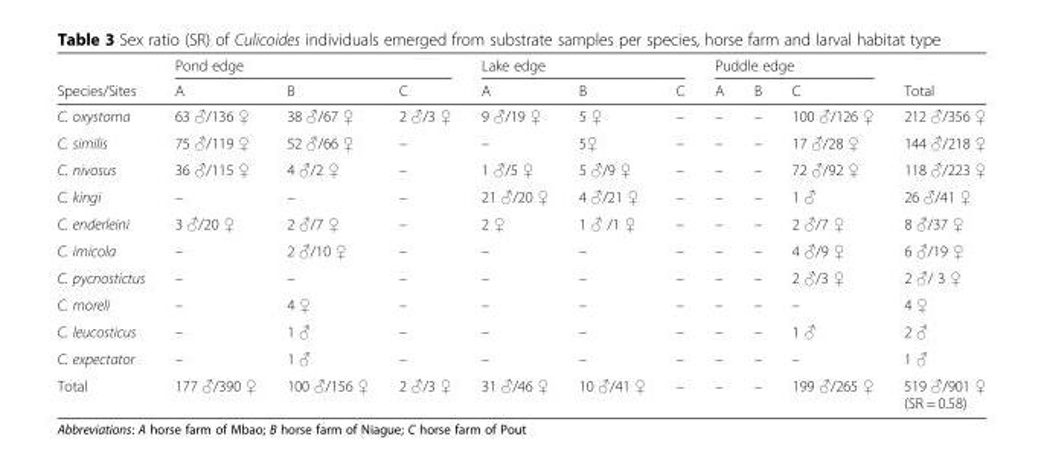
<table><thead><tr><td rowspan="2">Species/Sites</td><td colspan="3">Pond edge</td><td colspan="3">Lake edge</td><td colspan="3">Puddle edge</td><td rowspan="2">Total</td></tr><tr><td>A</td><td>B</td><td>C</td><td>A</td><td>B</td><td>C</td><td>A</td><td>B</td><td>C</td></tr></thead><tbody><tr><td>C. oxystoma</td><td>63 ♂/136 ♀</td><td>38 ♂/67 ♀</td><td>2 ♂/3 ♀</td><td>9 ♂/19 ♀</td><td>5 ♀</td><td>–</td><td>–</td><td>–</td><td>100 ♂/126 ♀</td><td>212 ♂/356 ♀</td></tr><tr><td>C. similis</td><td>75 ♂/119 ♀</td><td>52 ♂/66 ♀</td><td>–</td><td>–</td><td>5♀</td><td>–</td><td>–</td><td>–</td><td>17 ♂/28 ♀</td><td>144 ♂/218 ♀</td></tr><tr><td>C. nivosus</td><td>36 ♂/115 ♀</td><td>4 ♂/2 ♀</td><td>–</td><td>1 ♂/5 ♀</td><td>5 ♂/9 ♀</td><td>–</td><td>–</td><td>–</td><td>72 ♂/92 ♀</td><td>118 ♂/223 ♀</td></tr><tr><td>C. kingi</td><td>–</td><td>–</td><td>–</td><td>21 ♂/20 ♀</td><td>4 ♂/21 ♀</td><td>–</td><td>–</td><td>–</td><td>1 ♂</td><td>26 ♂/41 ♀</td></tr><tr><td>C. enderleini</td><td>3 ♂/20 ♀</td><td>2 ♂/7 ♀</td><td>–</td><td>2 ♀</td><td>1 ♂ /1 ♀</td><td>–</td><td>–</td><td>–</td><td>2 ♂/7 ♀</td><td>8 ♂/37 ♀</td></tr><tr><td>C. imicola</td><td>–</td><td>2 ♂/10 ♀</td><td>–</td><td>–</td><td>–</td><td>–</td><td>–</td><td>–</td><td>4 ♂/9 ♀</td><td>6 ♂/19 ♀</td></tr><tr><td>C. pycnostictus</td><td>–</td><td>–</td><td>–</td><td>–</td><td>–</td><td>–</td><td>–</td><td>–</td><td>2 ♂/3 ♀</td><td>2 ♂/ 3 ♀</td></tr><tr><td>C. moreli</td><td>–</td><td>4 ♀</td><td>–</td><td>–</td><td>–</td><td>–</td><td>–</td><td>–</td><td>–</td><td>4 ♀</td></tr><tr><td>C. leucosticus</td><td>–</td><td>1 ♂</td><td>–</td><td>–</td><td>–</td><td>–</td><td>–</td><td>–</td><td>1 ♂</td><td>2 ♂</td></tr><tr><td>C. expectator</td><td>–</td><td>1 ♂</td><td>–</td><td>–</td><td>–</td><td>–</td><td>–</td><td>–</td><td>–</td><td>1 ♂</td></tr><tr><td>Total</td><td>177 ♂/390 ♀</td><td>100 ♂/156 ♀</td><td>2 ♂/3 ♀</td><td>31 ♂/46 ♀</td><td>10 ♂/41 ♀</td><td>–</td><td>–</td><td>–</td><td>199 ♂/265 ♀</td><td>519 ♂/901 ♀ (SR = 0.58)</td></tr></tbody></table>